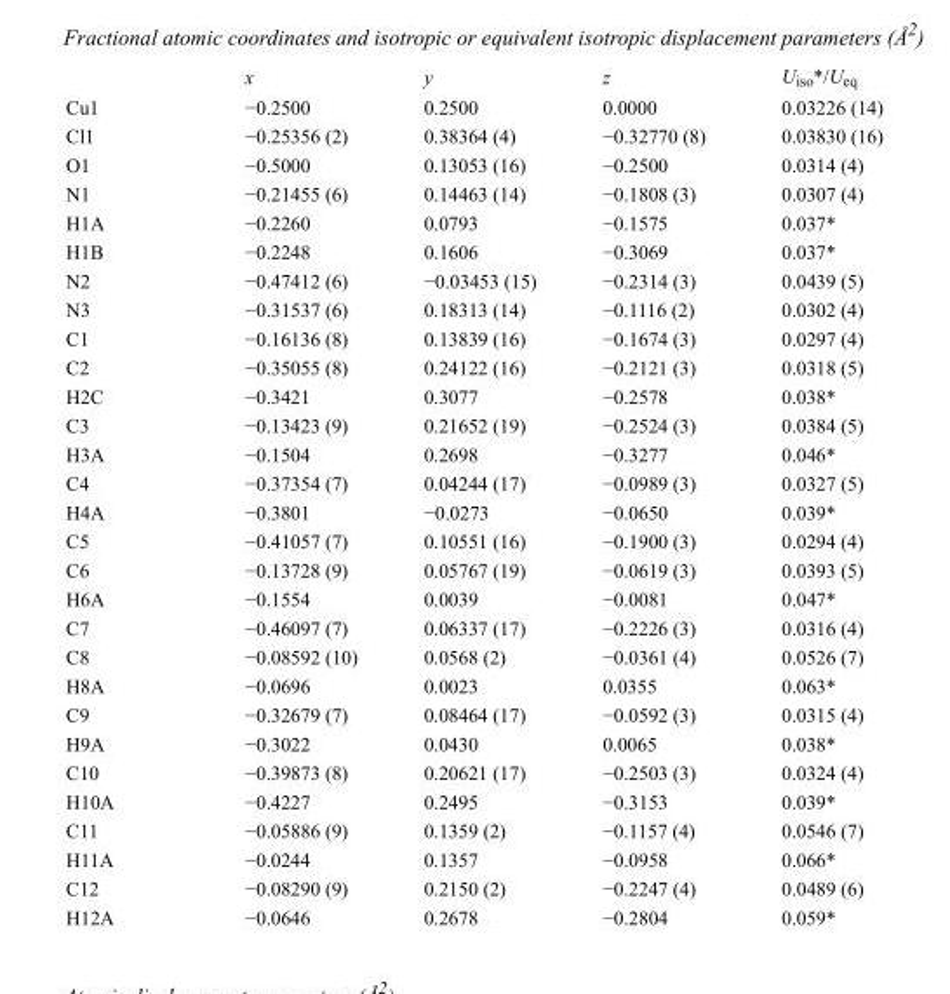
<table><thead><tr><td></td><td>x</td><td>y</td><td>z</td><td>U<sub>iso</sub>*/U<sub>eq</sub></td></tr></thead><tbody><tr><td>Cu1</td><td>−0.2500</td><td>0.2500</td><td>0.0000</td><td>0.03226 (14)</td></tr><tr><td>Cl1</td><td>−0.25356 (2)</td><td>0.38364 (4)</td><td>−0.32770 (8)</td><td>0.03830 (16)</td></tr><tr><td>O1</td><td>−0.5000</td><td>0.13053 (16)</td><td>−0.2500</td><td>0.0314 (4)</td></tr><tr><td>N1</td><td>−0.21455 (6)</td><td>0.14463 (14)</td><td>−0.1808 (3)</td><td>0.0307 (4)</td></tr><tr><td>H1A</td><td>−0.2260</td><td>0.0793</td><td>−0.1575</td><td>0.037*</td></tr><tr><td>H1B</td><td>−0.2248</td><td>0.1606</td><td>−0.3069</td><td>0.037*</td></tr><tr><td>N2</td><td>−0.47412 (6)</td><td>−0.03453 (15)</td><td>−0.2314 (3)</td><td>0.0439 (5)</td></tr><tr><td>N3</td><td>−0.31537 (6)</td><td>0.18313 (14)</td><td>−0.1116 (2)</td><td>0.0302 (4)</td></tr><tr><td>C1</td><td>−0.16136 (8)</td><td>0.13839 (16)</td><td>−0.1674 (3)</td><td>0.0297 (4)</td></tr><tr><td>C2</td><td>−0.35055 (8)</td><td>0.24122 (16)</td><td>−0.2121 (3)</td><td>0.0318 (5)</td></tr><tr><td>H2C</td><td>−0.3421</td><td>0.3077</td><td>−0.2578</td><td>0.038*</td></tr><tr><td>C3</td><td>−0.13423 (9)</td><td>0.21652 (19)</td><td>−0.2524 (3)</td><td>0.0384 (5)</td></tr><tr><td>H3A</td><td>−0.1504</td><td>0.2698</td><td>−0.3277</td><td>0.046*</td></tr><tr><td>C4</td><td>−0.37354 (7)</td><td>0.04244 (17)</td><td>−0.0989 (3)</td><td>0.0327 (5)</td></tr><tr><td>H4A</td><td>−0.3801</td><td>−0.0273</td><td>−0.0650</td><td>0.039*</td></tr><tr><td>C5</td><td>−0.41057 (7)</td><td>0.10551 (16)</td><td>−0.1900 (3)</td><td>0.0294 (4)</td></tr><tr><td>C6</td><td>−0.13728 (9)</td><td>0.05767 (19)</td><td>−0.0619 (3)</td><td>0.0393 (5)</td></tr><tr><td>H6A</td><td>−0.1554</td><td>0.0039</td><td>−0.0081</td><td>0.047*</td></tr><tr><td>C7</td><td>−0.46097 (7)</td><td>0.06337 (17)</td><td>−0.2226 (3)</td><td>0.0316 (4)</td></tr><tr><td>C8</td><td>−0.08592 (10)</td><td>0.0568 (2)</td><td>−0.0361 (4)</td><td>0.0526 (7)</td></tr><tr><td>H8A</td><td>−0.0696</td><td>0.0023</td><td>0.0355</td><td>0.063*</td></tr><tr><td>C9</td><td>−0.32679 (7)</td><td>0.08464 (17)</td><td>−0.0592 (3)</td><td>0.0315 (4)</td></tr><tr><td>H9A</td><td>−0.3022</td><td>0.0430</td><td>0.0065</td><td>0.038*</td></tr><tr><td>C10</td><td>−0.39873 (8)</td><td>0.20621 (17)</td><td>−0.2503 (3)</td><td>0.0324 (4)</td></tr><tr><td>H10A</td><td>−0.4227</td><td>0.2495</td><td>−0.3153</td><td>0.039*</td></tr><tr><td>C11</td><td>−0.05886 (9)</td><td>0.1359 (2)</td><td>−0.1157 (4)</td><td>0.0546 (7)</td></tr><tr><td>H11A</td><td>−0.0244</td><td>0.1357</td><td>−0.0958</td><td>0.066*</td></tr><tr><td>C12</td><td>−0.08290 (9)</td><td>0.2150 (2)</td><td>−0.2247 (4)</td><td>0.0489 (6)</td></tr><tr><td>H12A</td><td>−0.0646</td><td>0.2678</td><td>−0.2804</td><td>0.059*</td></tr></tbody></table>